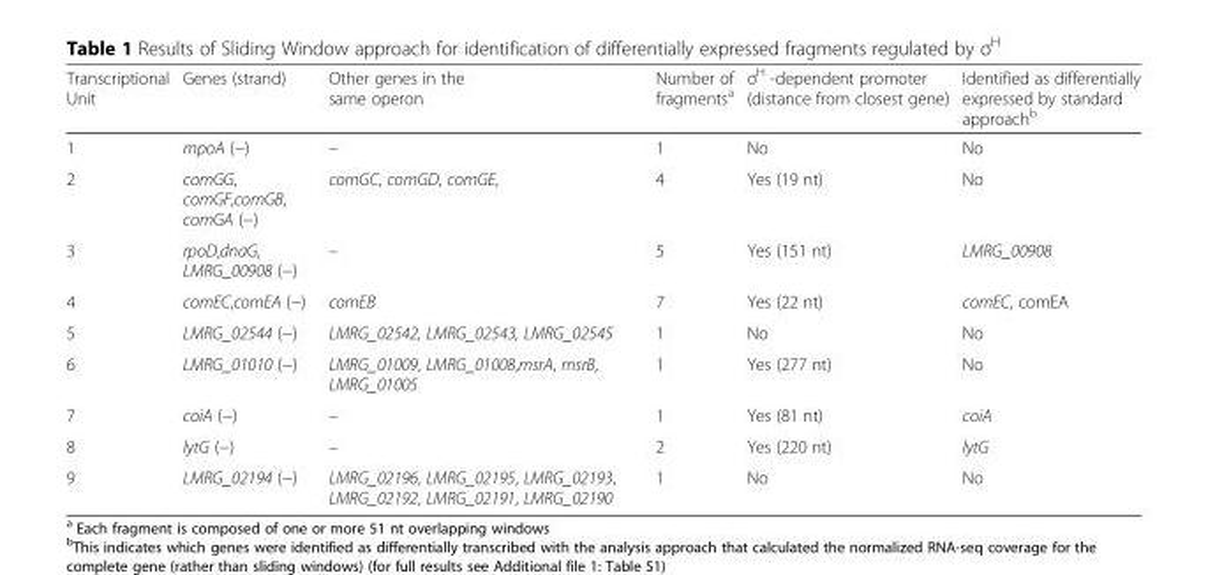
<table><thead><tr><td>Transcriptional Unit</td><td>Genes (strand)</td><td>Other genes in the same operon</td><td>Number of fragments<sup>a</sup></td><td>σ<sup>H</sup> -dependent promoter (distance from closest gene)</td><td>Identified as differentially expressed by standard approach<sup>b</sup></td></tr></thead><tbody><tr><td>1</td><td>mpoA (−)</td><td>–</td><td>1</td><td>No</td><td>No</td></tr><tr><td>2</td><td>comGG, comGF,comGB, comGA (−)</td><td>comGC, comGD, comGE,</td><td>4</td><td>Yes (19 nt)</td><td>No</td></tr><tr><td>3</td><td>rpoD,dnaG, LMRG_00908 (−)</td><td>–</td><td>5</td><td>Yes (151 nt)</td><td>LMRG_00908</td></tr><tr><td>4</td><td>comEC,comEA (−)</td><td>comEB</td><td>7</td><td>Yes (22 nt)</td><td>comEC, comEA</td></tr><tr><td>5</td><td>LMRG_02544 (−)</td><td>LMRG_02542, LMRG_02543, LMRG_02545</td><td>1</td><td>No</td><td>No</td></tr><tr><td>6</td><td>LMRG_01010 (−)</td><td>LMRG_01009, LMRG_01008,msrA, msrB, LMRG_01005</td><td>1</td><td>Yes (277 nt)</td><td>No</td></tr><tr><td>7</td><td>coiA (−)</td><td>–</td><td>1</td><td>Yes (81 nt)</td><td>coiA</td></tr><tr><td>8</td><td>lytG (−)</td><td>–</td><td>2</td><td>Yes (220 nt)</td><td>lytG</td></tr><tr><td>9</td><td>LMRG_02194 (−)</td><td>LMRG_02196, LMRG_02195, LMRG_02193, LMRG_02192, LMRG_02191, LMRG_02190</td><td>1</td><td>No</td><td>No</td></tr></tbody></table>